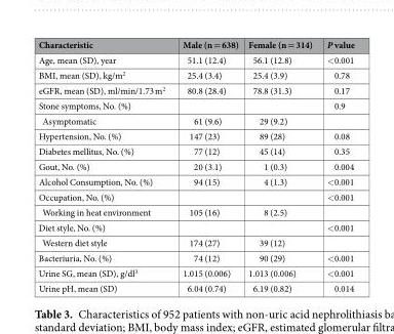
<table><thead><tr><td>Characteristic</td><td>Male (n = 638)</td><td>Female (n = 314)</td><td>P value</td></tr></thead><tbody><tr><td>Age, mean (SD), year</td><td>51.1 (12.4)</td><td>56.1 (12.8)</td><td>&lt;0.001</td></tr><tr><td>BMI, mean (SD), kg/m<sup>2</sup></td><td>25.4 (3.4)</td><td>25.4 (3.9)</td><td>0.78</td></tr><tr><td>eGFR, mean (SD), ml/min/1.73 m<sup>2</sup></td><td>80.8 (28.4)</td><td>78.8 (31.3)</td><td>0.17</td></tr><tr><td>Stone symptoms, No. (%)</td><td></td><td></td><td>0.9</td></tr><tr><td>Asymptomatic</td><td>61 (9.6)</td><td>29 (9.2)</td><td></td></tr><tr><td>Hypertension, No. (%)</td><td>147 (23)</td><td>89 (28)</td><td>0.08</td></tr><tr><td>Diabetes mellitus, No. (%)</td><td>77 (12)</td><td>45 (14)</td><td>0.35</td></tr><tr><td>Gout, No. (%)</td><td>20 (3.1)</td><td>1 (0.3)</td><td>0.004</td></tr><tr><td>Alcohol Consumption, No. (%)</td><td>94 (15)</td><td>4 (1.3)</td><td>&lt;0.001</td></tr><tr><td>Occupation, No. (%)</td><td></td><td></td><td>&lt;0.001</td></tr><tr><td>Working in heat environment</td><td>105 (16)</td><td>8 (2.5)</td><td></td></tr><tr><td>Diet style, No. (%)</td><td></td><td></td><td>&lt;0.001</td></tr><tr><td>Western diet style</td><td>174 (27)</td><td>39 (12)</td><td></td></tr><tr><td>Bacteriuria, No. (%)</td><td>74 (12)</td><td>90 (29)</td><td>&lt;0.001</td></tr><tr><td>Urine SG, mean (SD), g/dl<sup>3</sup></td><td>1.015 (0.006)</td><td>1.013 (0.006)</td><td>&lt;0.001</td></tr><tr><td>Urine pH, mean (SD)</td><td>6.04 (0.74)</td><td>6.19 (0.82)</td><td>0.014</td></tr></tbody></table>